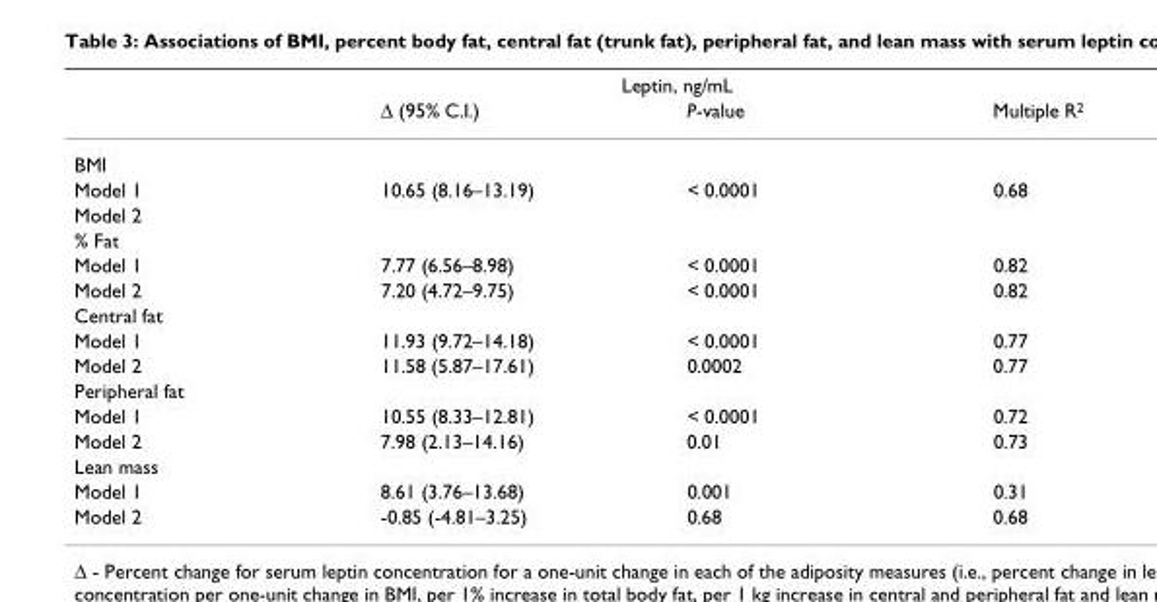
<table><thead><tr><td rowspan="2"></td><td colspan="2">Leptin, ng/mL</td><td rowspan="2">Multiple R<sup>2</sup></td></tr><tr><td>Δ (95% C.I.)</td><td>P-value</td></tr></thead><tbody><tr><td colspan="4">BMI</td></tr><tr><td>Model 1</td><td>10.65 (8.16–13.19)</td><td>&lt; 0.0001</td><td>0.68</td></tr><tr><td colspan="4">Model 2</td></tr><tr><td colspan="4">% Fat</td></tr><tr><td>Model 1</td><td>7.77 (6.56–8.98)</td><td>&lt; 0.0001</td><td>0.82</td></tr><tr><td>Model 2</td><td>7.20 (4.72–9.75)</td><td>&lt; 0.0001</td><td>0.82</td></tr><tr><td colspan="4">Central fat</td></tr><tr><td>Model 1</td><td>11.93 (9.72–14.18)</td><td>&lt; 0.0001</td><td>0.77</td></tr><tr><td>Model 2</td><td>11.58 (5.87–17.61)</td><td>0.0002</td><td>0.77</td></tr><tr><td colspan="4">Peripheral fat</td></tr><tr><td>Model 1</td><td>10.55 (8.33–12.81)</td><td>&lt; 0.0001</td><td>0.72</td></tr><tr><td>Model 2</td><td>7.98 (2.13–14.16)</td><td>0.01</td><td>0.73</td></tr><tr><td colspan="4">Lean mass</td></tr><tr><td>Model 1</td><td>8.61 (3.76–13.68)</td><td>0.001</td><td>0.31</td></tr><tr><td>Model 2</td><td>-0.85 (-4.81–3.25)</td><td>0.68</td><td>0.68</td></tr></tbody></table>